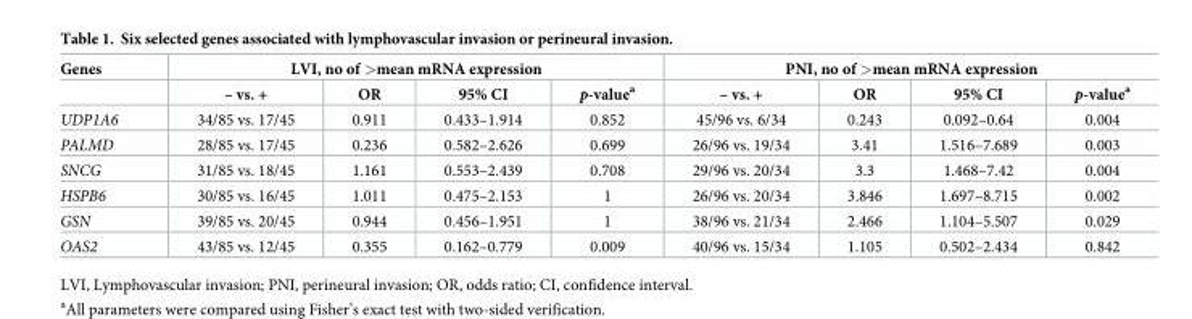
<table><thead><tr><td rowspan="2">Genes</td><td colspan="4">LVI, no of &gt;mean mRNA expression</td><td colspan="4">PNI, no of &gt;mean mRNA expression</td></tr><tr><td>– vs. +</td><td>OR</td><td>95% CI</td><td>p-value<sup>a</sup></td><td>– vs. +</td><td>OR</td><td>95% CI</td><td>p-value<sup>a</sup></td></tr></thead><tbody><tr><td>UDP1A6</td><td>34/85 vs. 17/45</td><td>0.911</td><td>0.433–1.914</td><td>0.852</td><td>45/96 vs. 6/34</td><td>0.243</td><td>0.092–0.64</td><td>0.004</td></tr><tr><td>PALMD</td><td>28/85 vs. 17/45</td><td>0.236</td><td>0.582–2.626</td><td>0.699</td><td>26/96 vs. 19/34</td><td>3.41</td><td>1.516–7.689</td><td>0.003</td></tr><tr><td>SNCG</td><td>31/85 vs. 18/45</td><td>1.161</td><td>0.553–2.439</td><td>0.708</td><td>29/96 vs. 20/34</td><td>3.3</td><td>1.468–7.42</td><td>0.004</td></tr><tr><td>HSPB6</td><td>30/85 vs. 16/45</td><td>1.011</td><td>0.475–2.153</td><td>1</td><td>26/96 vs. 20/34</td><td>3.846</td><td>1.697–8.715</td><td>0.002</td></tr><tr><td>GSN</td><td>39/85 vs. 20/45</td><td>0.944</td><td>0.456–1.951</td><td>1</td><td>38/96 vs. 21/34</td><td>2.466</td><td>1.104–5.507</td><td>0.029</td></tr><tr><td>OAS2</td><td>43/85 vs. 12/45</td><td>0.355</td><td>0.162–0.779</td><td>0.009</td><td>40/96 vs. 15/34</td><td>1.105</td><td>0.502–2.434</td><td>0.842</td></tr></tbody></table>